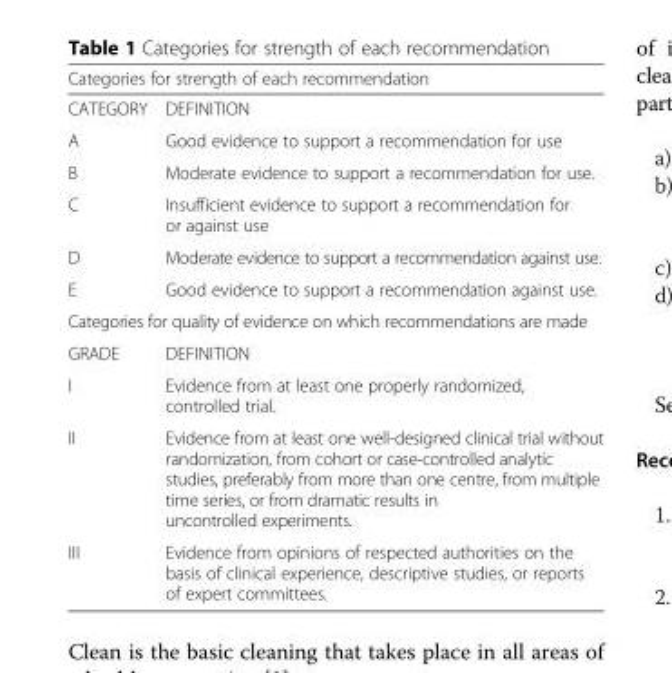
<table><thead><tr><td colspan="2">Categories for strength of each recommendation</td></tr><tr><td>CATEGORY</td><td>DEFINITION</td></tr></thead><tbody><tr><td>A</td><td>Good evidence to support a recommendation for use</td></tr><tr><td>B</td><td>Moderate evidence to support a recommendation for use.</td></tr><tr><td>C</td><td>Insufficient evidence to support a recommendation for or against use</td></tr><tr><td>D</td><td>Moderate evidence to support a recommendation against use.</td></tr><tr><td>E</td><td>Good evidence to support a recommendation against use.</td></tr><tr><td colspan="2">Categories for quality of evidence on which recommendations are made</td></tr><tr><td>GRADE</td><td>DEFINITION</td></tr><tr><td>I</td><td>Evidence from at least one properly randomized, controlled trial.</td></tr><tr><td>II</td><td>Evidence from at least one well-designed clinical trial without randomization, from cohort or case-controlled analytic studies, preferably from more than one centre, from multiple time series, or from dramatic results in uncontrolled experiments.</td></tr><tr><td>III</td><td>Evidence from opinions of respected authorities on the basis of clinical experience, descriptive studies, or reports of expert committees.</td></tr></tbody></table>